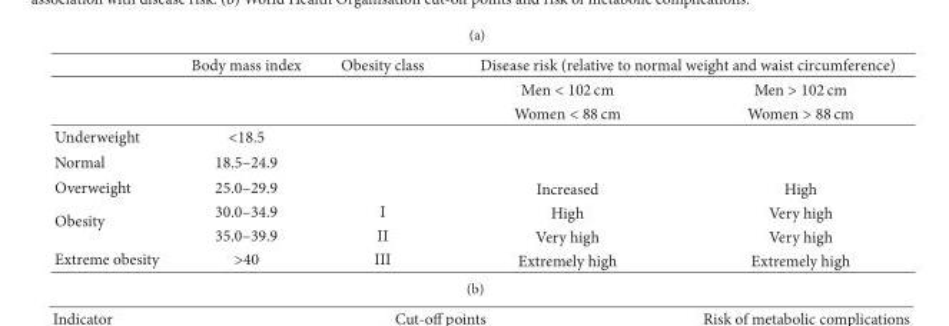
<table><thead><tr><td rowspan="2"></td><td rowspan="2">Body mass index</td><td rowspan="2">Obesity class</td><td colspan="2">Disease risk (relative to normal weight and waist circumference)</td></tr><tr><td>Men &lt; 102 cm</td><td>Men &gt; 102 cm</td></tr></thead><tbody><tr><td></td><td></td><td></td><td>Women &lt; 88 cm</td><td>Women &gt; 88 cm</td></tr><tr><td>Underweight</td><td>&lt;18.5</td><td></td><td></td><td></td></tr><tr><td>Normal</td><td>18.5–24.9</td><td></td><td></td><td></td></tr><tr><td>Overweight</td><td>25.0–29.9</td><td></td><td>Increased</td><td>High</td></tr><tr><td rowspan="2">Obesity</td><td>30.0–34.9</td><td>I</td><td>High</td><td>Very high</td></tr><tr><td>35.0–39.9</td><td>II</td><td>Very high</td><td>Very high</td></tr><tr><td>Extreme obesity</td><td>&gt;40</td><td>III</td><td>Extremely high</td><td>Extremely high</td></tr></tbody></table>